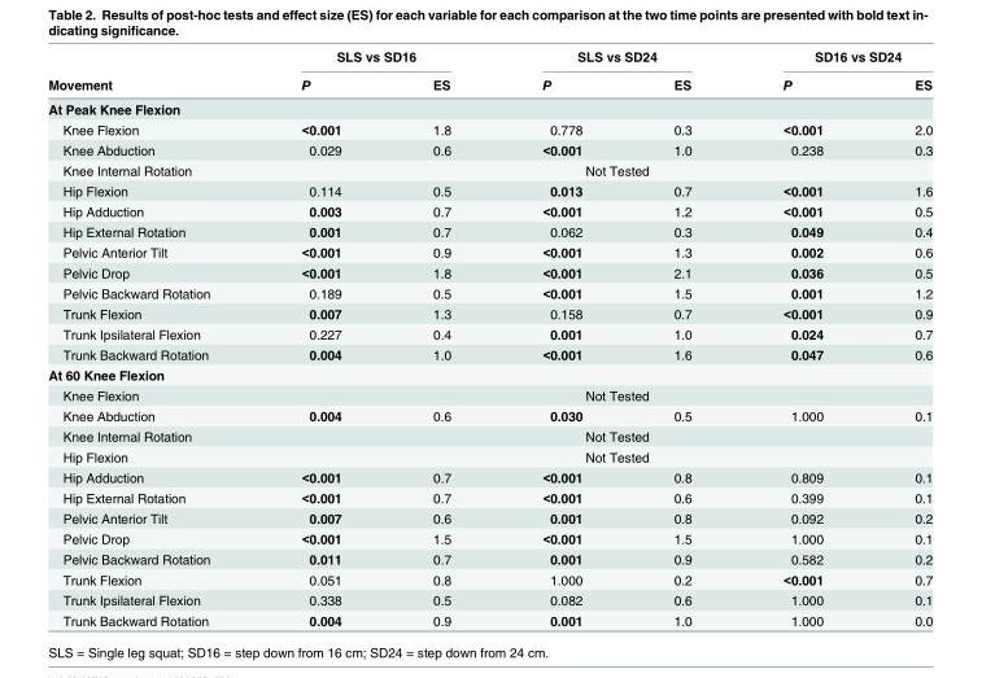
<table><thead><tr><td rowspan="2">Movement</td><td colspan="2">SLS vs SD16</td><td colspan="2">SLS vs SD24</td><td colspan="2">SD16 vs SD24</td></tr><tr><td>P</td><td>ES</td><td>P</td><td>ES</td><td>P</td><td>ES</td></tr></thead><tbody><tr><td colspan="7">At Peak Knee Flexion</td></tr><tr><td>Knee Flexion</td><td>&lt;0.001</td><td>1.8</td><td>0.778</td><td>0.3</td><td>&lt;0.001</td><td>2.0</td></tr><tr><td>Knee Abduction</td><td>0.029</td><td>0.6</td><td>&lt;0.001</td><td>1.0</td><td>0.238</td><td>0.3</td></tr><tr><td>Knee Internal Rotation</td><td colspan="6">Not Tested</td></tr><tr><td>Hip Flexion</td><td>0.114</td><td>0.5</td><td>0.013</td><td>0.7</td><td>&lt;0.001</td><td>1.6</td></tr><tr><td>Hip Adduction</td><td>0.003</td><td>0.7</td><td>&lt;0.001</td><td>1.2</td><td>&lt;0.001</td><td>0.5</td></tr><tr><td>Hip External Rotation</td><td>0.001</td><td>0.7</td><td>0.062</td><td>0.3</td><td>0.049</td><td>0.4</td></tr><tr><td>Pelvic Anterior Tilt</td><td>&lt;0.001</td><td>0.9</td><td>&lt;0.001</td><td>1.3</td><td>0.002</td><td>0.6</td></tr><tr><td>Pelvic Drop</td><td>&lt;0.001</td><td>1.8</td><td>&lt;0.001</td><td>2.1</td><td>0.036</td><td>0.5</td></tr><tr><td>Pelvic Backward Rotation</td><td>0.189</td><td>0.5</td><td>&lt;0.001</td><td>1.5</td><td>0.001</td><td>1.2</td></tr><tr><td>Trunk Flexion</td><td>0.007</td><td>1.3</td><td>0.158</td><td>0.7</td><td>&lt;0.001</td><td>0.9</td></tr><tr><td>Trunk Ipsilateral Flexion</td><td>0.227</td><td>0.4</td><td>0.001</td><td>1.0</td><td>0.024</td><td>0.7</td></tr><tr><td>Trunk Backward Rotation</td><td>0.004</td><td>1.0</td><td>&lt;0.001</td><td>1.6</td><td>0.047</td><td>0.6</td></tr><tr><td colspan="7">At 60 Knee Flexion</td></tr><tr><td>Knee Flexion</td><td colspan="6">Not Tested</td></tr><tr><td>Knee Abduction</td><td>0.004</td><td>0.6</td><td>0.030</td><td>0.5</td><td>1.000</td><td>0.1</td></tr><tr><td>Knee Internal Rotation</td><td colspan="6">Not Tested</td></tr><tr><td>Hip Flexion</td><td colspan="6">Not Tested</td></tr><tr><td>Hip Adduction</td><td>&lt;0.001</td><td>0.7</td><td>&lt;0.001</td><td>0.8</td><td>0.809</td><td>0.1</td></tr><tr><td>Hip External Rotation</td><td>&lt;0.001</td><td>0.7</td><td>&lt;0.001</td><td>0.6</td><td>0.399</td><td>0.1</td></tr><tr><td>Pelvic Anterior Tilt</td><td>0.007</td><td>0.6</td><td>0.001</td><td>0.8</td><td>0.092</td><td>0.2</td></tr><tr><td>Pelvic Drop</td><td>&lt;0.001</td><td>1.5</td><td>&lt;0.001</td><td>1.5</td><td>1.000</td><td>0.1</td></tr><tr><td>Pelvic Backward Rotation</td><td>0.011</td><td>0.7</td><td>0.001</td><td>0.9</td><td>0.582</td><td>0.2</td></tr><tr><td>Trunk Flexion</td><td>0.051</td><td>0.8</td><td>1.000</td><td>0.2</td><td>&lt;0.001</td><td>0.7</td></tr><tr><td>Trunk Ipsilateral Flexion</td><td>0.338</td><td>0.5</td><td>0.082</td><td>0.6</td><td>1.000</td><td>0.1</td></tr><tr><td>Trunk Backward Rotation</td><td>0.004</td><td>0.9</td><td>0.001</td><td>1.0</td><td>1.000</td><td>0.0</td></tr></tbody></table>